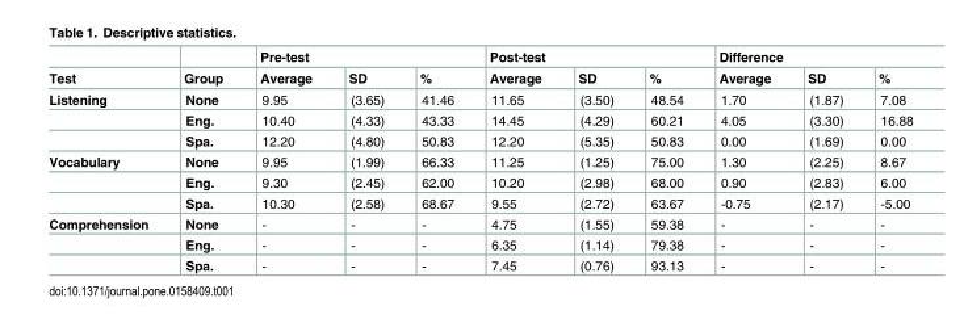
<table><thead><tr><td rowspan="2">Test</td><td rowspan="2">Group</td><td colspan="3">Pre-test</td><td colspan="3">Post-test</td><td colspan="3">Difference</td></tr><tr><td>Average</td><td>SD</td><td>%</td><td>Average</td><td>SD</td><td>%</td><td>Average</td><td>SD</td><td>%</td></tr></thead><tbody><tr><td rowspan="3">Listening</td><td>None</td><td>9.95</td><td>(3.65)</td><td>41.46</td><td>11.65</td><td>(3.50)</td><td>48.54</td><td>1.70</td><td>(1.87)</td><td>7.08</td></tr><tr><td>Eng.</td><td>10.40</td><td>(4.33)</td><td>43.33</td><td>14.45</td><td>(4.29)</td><td>60.21</td><td>4.05</td><td>(3.30)</td><td>16.88</td></tr><tr><td>Spa.</td><td>12.20</td><td>(4.80)</td><td>50.83</td><td>12.20</td><td>(5.35)</td><td>50.83</td><td>0.00</td><td>(1.69)</td><td>0.00</td></tr><tr><td rowspan="3">Vocabulary</td><td>None</td><td>9.95</td><td>(1.99)</td><td>66.33</td><td>11.25</td><td>(1.25)</td><td>75.00</td><td>1.30</td><td>(2.25)</td><td>8.67</td></tr><tr><td>Eng.</td><td>9.30</td><td>(2.45)</td><td>62.00</td><td>10.20</td><td>(2.98)</td><td>68.00</td><td>0.90</td><td>(2.83)</td><td>6.00</td></tr><tr><td>Spa.</td><td>10.30</td><td>(2.58)</td><td>68.67</td><td>9.55</td><td>(2.72)</td><td>63.67</td><td>-0.75</td><td>(2.17)</td><td>-5.00</td></tr><tr><td rowspan="3">Comprehension</td><td>None</td><td>-</td><td>-</td><td>-</td><td>4.75</td><td>(1.55)</td><td>59.38</td><td>-</td><td>-</td><td>-</td></tr><tr><td>Eng.</td><td>-</td><td>-</td><td>-</td><td>6.35</td><td>(1.14)</td><td>79.38</td><td>-</td><td>-</td><td>-</td></tr><tr><td>Spa.</td><td>-</td><td>-</td><td>-</td><td>7.45</td><td>(0.76)</td><td>93.13</td><td>-</td><td>-</td><td>-</td></tr></tbody></table>